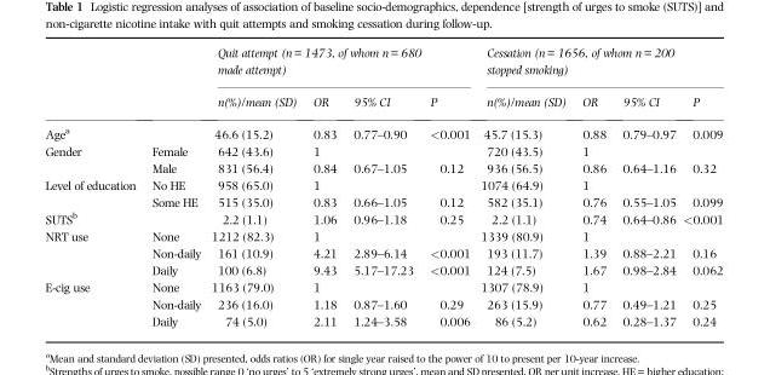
<table><thead><tr><td rowspan="2"></td><td rowspan="2"></td><td colspan="4">Quit attempt (n = 1473, of whom n = 680 made attempt)</td><td colspan="4">Cessation (n = 1656, of whom n = 200 stopped smoking)</td></tr><tr><td>n(%)/mean (SD)</td><td>OR</td><td>95% CI</td><td>P</td><td>n(%)/mean (SD)</td><td>OR</td><td>95% CI</td><td>P</td></tr></thead><tbody><tr><td>Age<sup>a</sup></td><td></td><td>46.6 (15.2)</td><td>0.83</td><td>0.77–0.90</td><td>&lt;0.001</td><td>45.7 (15.3)</td><td>0.88</td><td>0.79–0.97</td><td>0.009</td></tr><tr><td rowspan="2">Gender</td><td>Female</td><td>642 (43.6)</td><td>1</td><td></td><td></td><td>720 (43.5)</td><td>1</td><td></td><td></td></tr><tr><td>Male</td><td>831 (56.4)</td><td>0.84</td><td>0.67–1.05</td><td>0.12</td><td>936 (56.5)</td><td>0.86</td><td>0.64–1.16</td><td>0.32</td></tr><tr><td rowspan="2">Level of education</td><td>No HE</td><td>958 (65.0)</td><td>1</td><td></td><td></td><td>1074 (64.9)</td><td>1</td><td></td><td></td></tr><tr><td>Some HE</td><td>515 (35.0)</td><td>0.83</td><td>0.66–1.05</td><td>0.12</td><td>582 (35.1)</td><td>0.76</td><td>0.55–1.05</td><td>0.099</td></tr><tr><td>SUTS<sup>b</sup></td><td></td><td>2.2 (1.1)</td><td>1.06</td><td>0.96–1.18</td><td>0.25</td><td>2.2 (1.1)</td><td>0.74</td><td>0.64–0.86</td><td>&lt;0.001</td></tr><tr><td rowspan="3">NRT use</td><td>None</td><td>1212 (82.3)</td><td>1</td><td></td><td></td><td>1339 (80.9)</td><td>1</td><td></td><td></td></tr><tr><td>Non-daily</td><td>161 (10.9)</td><td>4.21</td><td>2.89–6.14</td><td>&lt;0.001</td><td>193 (11.7)</td><td>1.39</td><td>0.88–2.21</td><td>0.16</td></tr><tr><td>Daily</td><td>100 (6.8)</td><td>9.43</td><td>5.17–17.23</td><td>&lt;0.001</td><td>124 (7.5)</td><td>1.67</td><td>0.98–2.84</td><td>0.062</td></tr><tr><td rowspan="3">E-cig use</td><td>None</td><td>1163 (79.0)</td><td>1</td><td></td><td></td><td>1307 (78.9)</td><td>1</td><td></td><td></td></tr><tr><td>Non-daily</td><td>236 (16.0)</td><td>1.18</td><td>0.87–1.60</td><td>0.29</td><td>263 (15.9)</td><td>0.77</td><td>0.49–1.21</td><td>0.25</td></tr><tr><td>Daily</td><td>74 (5.0)</td><td>2.11</td><td>1.24–3.58</td><td>0.006</td><td>86 (5.2)</td><td>0.62</td><td>0.28–1.37</td><td>0.24</td></tr></tbody></table>